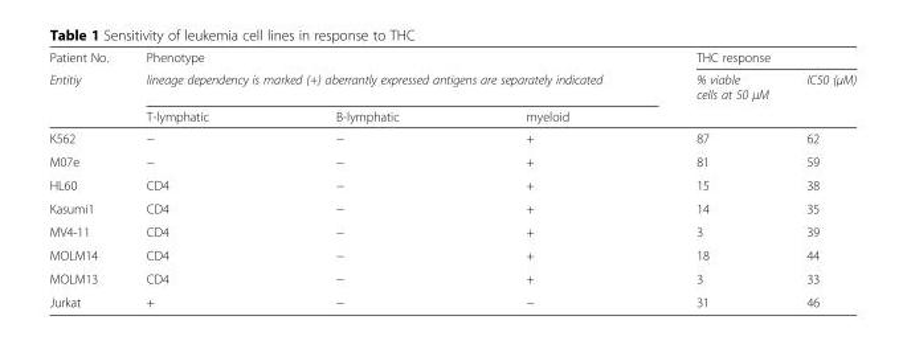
<table><thead><tr><td rowspan="3">Patient No. Entitiy</td><td>Phenotype</td><td></td><td></td><td colspan="2">THC response</td></tr><tr><td colspan="3">lineage dependency is marked (+) aberrantly expressed antigens are separately indicated</td><td rowspan="2">% viable cells at 50 μM</td><td rowspan="2">IC50 (μM)</td></tr><tr><td>T-lymphatic</td><td>B-lymphatic</td><td>myeloid</td></tr></thead><tbody><tr><td>K562</td><td>−</td><td>−</td><td>+</td><td>87</td><td>62</td></tr><tr><td>M07e</td><td>−</td><td>−</td><td>+</td><td>81</td><td>59</td></tr><tr><td>HL60</td><td>CD4</td><td>−</td><td>+</td><td>15</td><td>38</td></tr><tr><td>Kasumi1</td><td>CD4</td><td>−</td><td>+</td><td>14</td><td>35</td></tr><tr><td>MV4-11</td><td>CD4</td><td>−</td><td>+</td><td>3</td><td>39</td></tr><tr><td>MOLM14</td><td>CD4</td><td>−</td><td>+</td><td>18</td><td>44</td></tr><tr><td>MOLM13</td><td>CD4</td><td>−</td><td>+</td><td>3</td><td>33</td></tr><tr><td>Jurkat</td><td>+</td><td>−</td><td>−</td><td>31</td><td>46</td></tr></tbody></table>